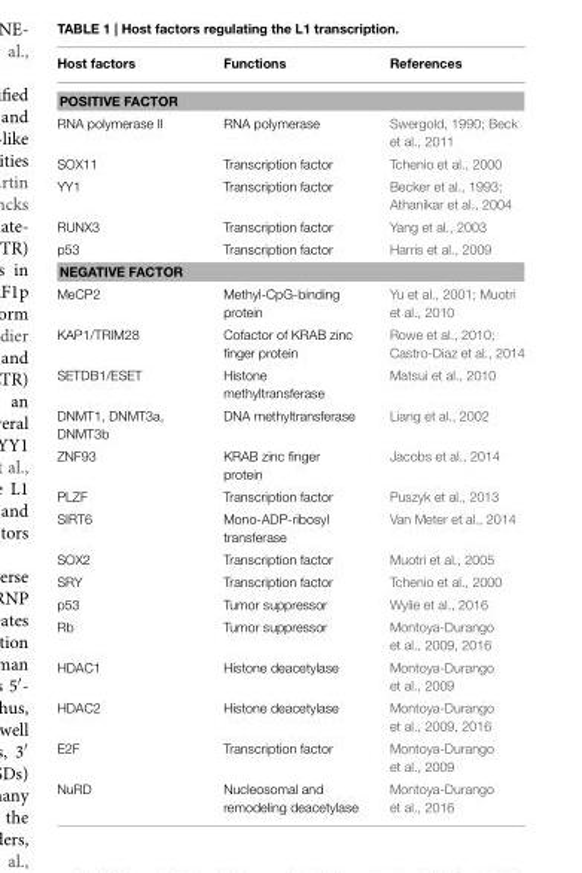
<table><thead><tr><td>Host factors</td><td>Functions</td><td>References</td></tr></thead><tbody><tr><td colspan="3">POSITIVE FACTOR</td></tr><tr><td>RNA polymerase II</td><td>RNA polymerase</td><td>Swergold, 1990; Beck et al., 2011</td></tr><tr><td>SOX11</td><td>Transcription factor</td><td>Tchenio et al., 2000</td></tr><tr><td>YY1</td><td>Transcription factor</td><td>Becker et al., 1993; Athanikar et al., 2004</td></tr><tr><td>RUNX3</td><td>Transcription factor</td><td>Yang et al., 2003</td></tr><tr><td>p53</td><td>Transcription factor</td><td>Harris et al., 2009</td></tr><tr><td colspan="3">NEGATIVE FACTOR</td></tr><tr><td>MeCP2</td><td>Methyl-CpG-binding protein</td><td>Yu et al., 2001; Muotri et al., 2010</td></tr><tr><td>KAP1/TRIM28</td><td>Cofactor of KRAB zinc finger protein</td><td>Rowe et al., 2010; Castro-Diaz et al., 2014</td></tr><tr><td>SETDB1/ESET</td><td>Histone methyltransferase</td><td>Matsui et al., 2010</td></tr><tr><td>DNMT1, DNMT3a, DNMT3b</td><td>DNA methyltransferase</td><td>Liang et al., 2002</td></tr><tr><td>ZNF93</td><td>KRAB zinc finger protein</td><td>Jacobs et al., 2014</td></tr><tr><td>PLZF</td><td>Transcription factor</td><td>Puszyk et al., 2013</td></tr><tr><td>SIRT6</td><td>Mono-ADP-ribosyl transferase</td><td>Van Meter et al., 2014</td></tr><tr><td>SOX2</td><td>Transcription factor</td><td>Muotri et al., 2005</td></tr><tr><td>SRY</td><td>Transcription factor</td><td>Tchenio et al., 2000</td></tr><tr><td>p53</td><td>Tumor suppressor</td><td>Wylie et al., 2016</td></tr><tr><td>Rb</td><td>Tumor suppressor</td><td>Montoya-Durango et al., 2009, 2016</td></tr><tr><td>HDAC1</td><td>Histone deacetylase</td><td>Montoya-Durango et al., 2009</td></tr><tr><td>HDAC2</td><td>Histone deacetylase</td><td>Montoya-Durango et al., 2009, 2016</td></tr><tr><td>E2F</td><td>Transcription factor</td><td>Montoya-Durango et al., 2009</td></tr><tr><td>NuRD</td><td>Nucleosomal and remodeling deacetylase</td><td>Montoya-Durango et al., 2016</td></tr></tbody></table>